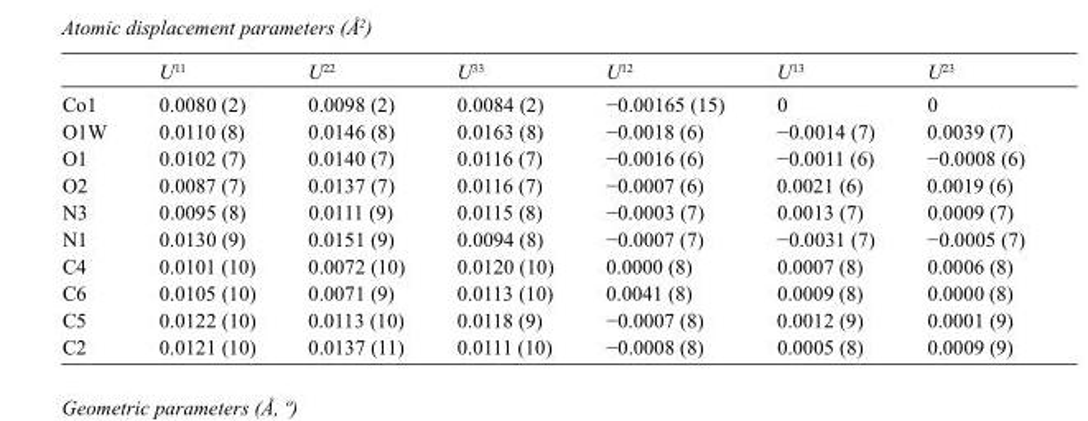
<table><thead><tr><td></td><td>U<sup>11</sup></td><td>U<sup>22</sup></td><td>U<sup>33</sup></td><td>U<sup>12</sup></td><td>U<sup>13</sup></td><td>U<sup>23</sup></td></tr></thead><tbody><tr><td>Co1</td><td>0.0080 (2)</td><td>0.0098 (2)</td><td>0.0084 (2)</td><td>−0.00165 (15)</td><td>0</td><td>0</td></tr><tr><td>O1W</td><td>0.0110 (8)</td><td>0.0146 (8)</td><td>0.0163 (8)</td><td>−0.0018 (6)</td><td>−0.0014 (7)</td><td>0.0039 (7)</td></tr><tr><td>O1</td><td>0.0102 (7)</td><td>0.0140 (7)</td><td>0.0116 (7)</td><td>−0.0016 (6)</td><td>−0.0011 (6)</td><td>−0.0008 (6)</td></tr><tr><td>O2</td><td>0.0087 (7)</td><td>0.0137 (7)</td><td>0.0116 (7)</td><td>−0.0007 (6)</td><td>0.0021 (6)</td><td>0.0019 (6)</td></tr><tr><td>N3</td><td>0.0095 (8)</td><td>0.0111 (9)</td><td>0.0115 (8)</td><td>−0.0003 (7)</td><td>0.0013 (7)</td><td>0.0009 (7)</td></tr><tr><td>N1</td><td>0.0130 (9)</td><td>0.0151 (9)</td><td>0.0094 (8)</td><td>−0.0007 (7)</td><td>−0.0031 (7)</td><td>−0.0005 (7)</td></tr><tr><td>C4</td><td>0.0101 (10)</td><td>0.0072 (10)</td><td>0.0120 (10)</td><td>0.0000 (8)</td><td>0.0007 (8)</td><td>0.0006 (8)</td></tr><tr><td>C6</td><td>0.0105 (10)</td><td>0.0071 (9)</td><td>0.0113 (10)</td><td>0.0041 (8)</td><td>0.0009 (8)</td><td>0.0000 (8)</td></tr><tr><td>C5</td><td>0.0122 (10)</td><td>0.0113 (10)</td><td>0.0118 (9)</td><td>−0.0007 (8)</td><td>0.0012 (9)</td><td>0.0001 (9)</td></tr><tr><td>C2</td><td>0.0121 (10)</td><td>0.0137 (11)</td><td>0.0111 (10)</td><td>−0.0008 (8)</td><td>0.0005 (8)</td><td>0.0009 (9)</td></tr></tbody></table>